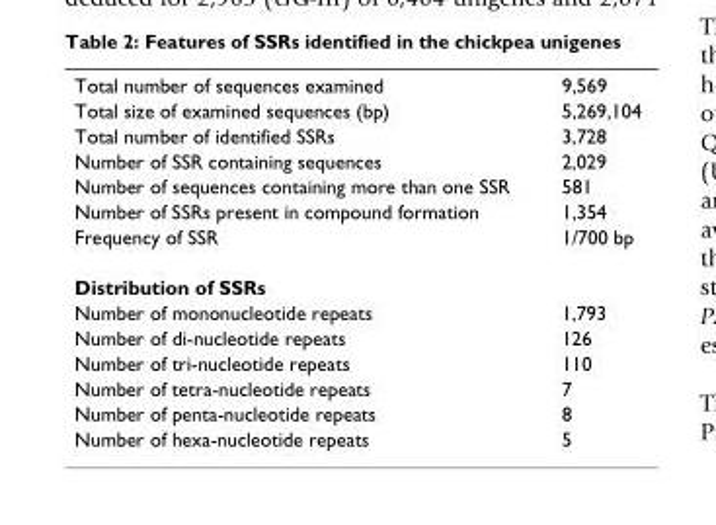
<table><tbody><tr><td>Total number of sequences examined</td><td>9,569</td></tr><tr><td>Total size of examined sequences (bp)</td><td>5,269,104</td></tr><tr><td>Total number of identified SSRs</td><td>3,728</td></tr><tr><td>Number of SSR containing sequences</td><td>2,029</td></tr><tr><td>Number of sequences containing more than one SSR</td><td>581</td></tr><tr><td>Number of SSRs present in compound formation</td><td>1,354</td></tr><tr><td>Frequency of SSR</td><td>1/700 bp</td></tr><tr><td colspan="2">Distribution of SSRs</td></tr><tr><td>Number of mononucleotide repeats</td><td>1,793</td></tr><tr><td>Number of di-nucleotide repeats</td><td>126</td></tr><tr><td>Number of tri-nucleotide repeats</td><td>110</td></tr><tr><td>Number of tetra-nucleotide repeats</td><td>7</td></tr><tr><td>Number of penta-nucleotide repeats</td><td>8</td></tr><tr><td>Number of hexa-nucleotide repeats</td><td>5</td></tr></tbody></table>